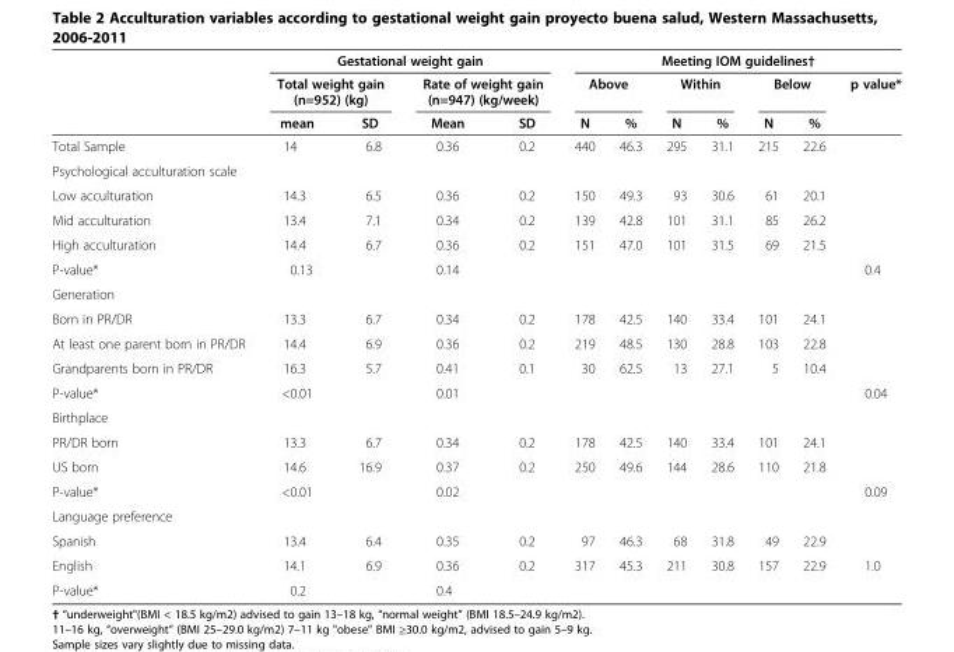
<table><thead><tr><td rowspan="3"></td><td colspan="4">Gestational weight gain</td><td colspan="7">Meeting IOM guidelines†</td></tr><tr><td colspan="2">Total weight gain (n=952) (kg)</td><td colspan="2">Rate of weight gain (n=947) (kg/week)</td><td colspan="2">Above</td><td colspan="2">Within</td><td colspan="2">Below</td><td rowspan="2">p value*</td></tr><tr><td>mean</td><td>SD</td><td>Mean</td><td>SD</td><td>N</td><td>%</td><td>N</td><td>%</td><td>N</td><td>%</td></tr></thead><tbody><tr><td>Total Sample</td><td>14</td><td>6.8</td><td>0.36</td><td>0.2</td><td>440</td><td>46.3</td><td>295</td><td>31.1</td><td>215</td><td>22.6</td><td></td></tr><tr><td colspan="12">Psychological acculturation scale</td></tr><tr><td>Low acculturation</td><td>14.3</td><td>6.5</td><td>0.36</td><td>0.2</td><td>150</td><td>49.3</td><td>93</td><td>30.6</td><td>61</td><td>20.1</td><td></td></tr><tr><td>Mid acculturation</td><td>13.4</td><td>7.1</td><td>0.34</td><td>0.2</td><td>139</td><td>42.8</td><td>101</td><td>31.1</td><td>85</td><td>26.2</td><td></td></tr><tr><td>High acculturation</td><td>14.4</td><td>6.7</td><td>0.36</td><td>0.2</td><td>151</td><td>47.0</td><td>101</td><td>31.5</td><td>69</td><td>21.5</td><td></td></tr><tr><td>P-value*</td><td>0.13</td><td></td><td>0.14</td><td></td><td></td><td></td><td></td><td></td><td></td><td></td><td>0.4</td></tr><tr><td colspan="12">Generation</td></tr><tr><td>Born in PR/DR</td><td>13.3</td><td>6.7</td><td>0.34</td><td>0.2</td><td>178</td><td>42.5</td><td>140</td><td>33.4</td><td>101</td><td>24.1</td><td></td></tr><tr><td>At least one parent born in PR/DR</td><td>14.4</td><td>6.9</td><td>0.36</td><td>0.2</td><td>219</td><td>48.5</td><td>130</td><td>28.8</td><td>103</td><td>22.8</td><td></td></tr><tr><td>Grandparents born in PR/DR</td><td>16.3</td><td>5.7</td><td>0.41</td><td>0.1</td><td>30</td><td>62.5</td><td>13</td><td>27.1</td><td>5</td><td>10.4</td><td></td></tr><tr><td>P-value*</td><td>&lt;0.01</td><td></td><td>0.01</td><td></td><td></td><td></td><td></td><td></td><td></td><td></td><td>0.04</td></tr><tr><td colspan="12">Birthplace</td></tr><tr><td>PR/DR born</td><td>13.3</td><td>6.7</td><td>0.34</td><td>0.2</td><td>178</td><td>42.5</td><td>140</td><td>33.4</td><td>101</td><td>24.1</td><td></td></tr><tr><td>US born</td><td>14.6</td><td>16.9</td><td>0.37</td><td>0.2</td><td>250</td><td>49.6</td><td>144</td><td>28.6</td><td>110</td><td>21.8</td><td></td></tr><tr><td>P-value*</td><td>&lt;0.01</td><td></td><td>0.02</td><td></td><td></td><td></td><td></td><td></td><td></td><td></td><td>0.09</td></tr><tr><td colspan="12">Language preference</td></tr><tr><td>Spanish</td><td>13.4</td><td>6.4</td><td>0.35</td><td>0.2</td><td>97</td><td>46.3</td><td>68</td><td>31.8</td><td>49</td><td>22.9</td><td></td></tr><tr><td>English</td><td>14.1</td><td>6.9</td><td>0.36</td><td>0.2</td><td>317</td><td>45.3</td><td>211</td><td>30.8</td><td>157</td><td>22.9</td><td>1.0</td></tr><tr><td>P-value*</td><td>0.2</td><td></td><td>0.4</td><td></td><td></td><td></td><td></td><td></td><td></td><td></td><td></td></tr></tbody></table>